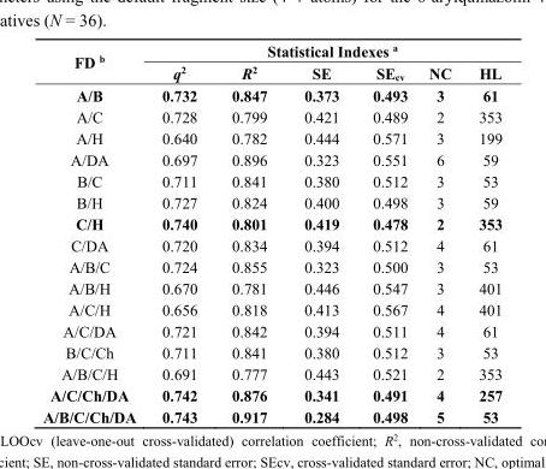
<table><thead><tr><td rowspan="2">FD <sup>b</sup></td><td colspan="6">Statistical Indexes <sup>a</sup></td></tr><tr><td>q<sup>2</sup></td><td>R<sup>2</sup></td><td>SE</td><td>SE<sub>cv</sub></td><td>NC</td><td>HL</td></tr></thead><tbody><tr><td>A/B</td><td>0.732</td><td>0.847</td><td>0.373</td><td>0.493</td><td>3</td><td>61</td></tr><tr><td>A/C</td><td>0.728</td><td>0.799</td><td>0.421</td><td>0.489</td><td>2</td><td>353</td></tr><tr><td>A/H</td><td>0.640</td><td>0.782</td><td>0.444</td><td>0.571</td><td>3</td><td>199</td></tr><tr><td>A/DA</td><td>0.697</td><td>0.896</td><td>0.323</td><td>0.551</td><td>6</td><td>59</td></tr><tr><td>B/C</td><td>0.711</td><td>0.841</td><td>0.380</td><td>0.512</td><td>3</td><td>53</td></tr><tr><td>B/H</td><td>0.727</td><td>0.824</td><td>0.400</td><td>0.498</td><td>3</td><td>59</td></tr><tr><td>C/H</td><td>0.740</td><td>0.801</td><td>0.419</td><td>0.478</td><td>2</td><td>353</td></tr><tr><td>C/DA</td><td>0.720</td><td>0.834</td><td>0.394</td><td>0.512</td><td>4</td><td>61</td></tr><tr><td>A/B/C</td><td>0.724</td><td>0.855</td><td>0.323</td><td>0.500</td><td>3</td><td>53</td></tr><tr><td>A/B/H</td><td>0.670</td><td>0.781</td><td>0.446</td><td>0.547</td><td>3</td><td>401</td></tr><tr><td>A/C/H</td><td>0.656</td><td>0.818</td><td>0.413</td><td>0.567</td><td>4</td><td>401</td></tr><tr><td>A/C/DA</td><td>0.721</td><td>0.842</td><td>0.394</td><td>0.511</td><td>4</td><td>61</td></tr><tr><td>B/C/Ch</td><td>0.711</td><td>0.841</td><td>0.380</td><td>0.512</td><td>3</td><td>53</td></tr><tr><td>A/B/C/H</td><td>0.691</td><td>0.777</td><td>0.443</td><td>0.521</td><td>2</td><td>353</td></tr><tr><td>A/C/Ch/DA</td><td>0.742</td><td>0.876</td><td>0.341</td><td>0.491</td><td>4</td><td>257</td></tr><tr><td>A/B/C/Ch/DA</td><td>0.743</td><td>0.917</td><td>0.284</td><td>0.498</td><td>5</td><td>53</td></tr></tbody></table>